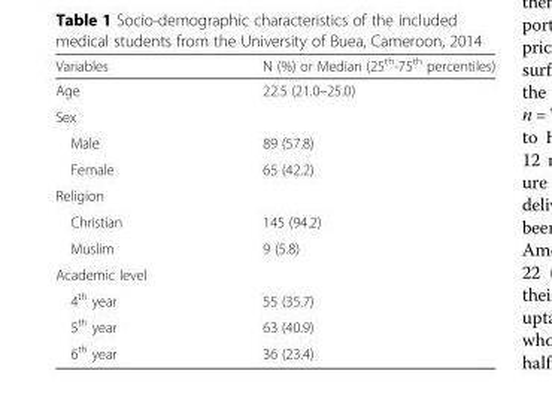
<table><thead><tr><td>Variables</td><td>N (%) or Median (25<sup>th</sup>-75<sup>th</sup> percentiles)</td></tr></thead><tbody><tr><td>Age</td><td>22.5 (21.0–25.0)</td></tr><tr><td colspan="2">Sex</td></tr><tr><td>Male</td><td>89 (57.8)</td></tr><tr><td>Female</td><td>65 (42.2)</td></tr><tr><td colspan="2">Religion</td></tr><tr><td>Christian</td><td>145 (94.2)</td></tr><tr><td>Muslim</td><td>9 (5.8)</td></tr><tr><td colspan="2">Academic level</td></tr><tr><td>4<sup>th</sup> year</td><td>55 (35.7)</td></tr><tr><td>5<sup>th</sup> year</td><td>63 (40.9)</td></tr><tr><td>6<sup>th</sup> year</td><td>36 (23.4)</td></tr></tbody></table>